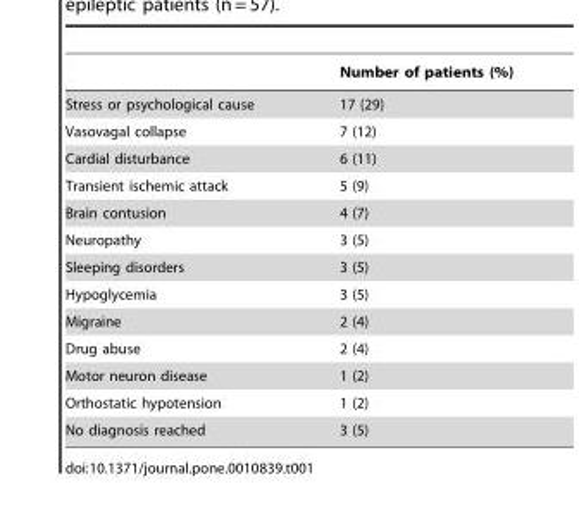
<table><thead><tr><td></td><td>Number of patients (%)</td></tr></thead><tbody><tr><td>Stress or psychological cause</td><td>17 (29)</td></tr><tr><td>Vasovagal collapse</td><td>7 (12)</td></tr><tr><td>Cardial disturbance</td><td>6 (11)</td></tr><tr><td>Transient ischemic attack</td><td>5 (9)</td></tr><tr><td>Brain contusion</td><td>4 (7)</td></tr><tr><td>Neuropathy</td><td>3 (5)</td></tr><tr><td>Sleeping disorders</td><td>3 (5)</td></tr><tr><td>Hypoglycemia</td><td>3 (5)</td></tr><tr><td>Migraine</td><td>2 (4)</td></tr><tr><td>Drug abuse</td><td>2 (4)</td></tr><tr><td>Motor neuron disease</td><td>1 (2)</td></tr><tr><td>Orthostatic hypotension</td><td>1 (2)</td></tr><tr><td>No diagnosis reached</td><td>3 (5)</td></tr></tbody></table>